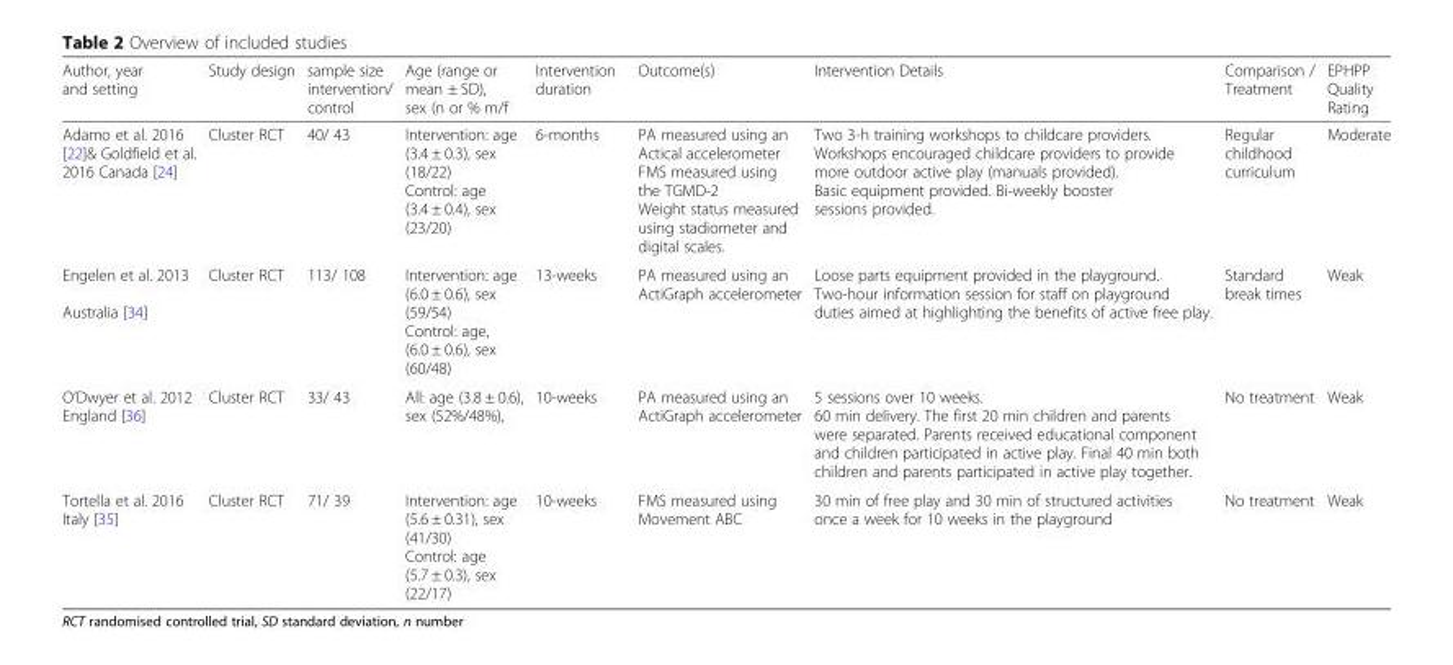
<table><thead><tr><td>Author, year and setting</td><td>Study design</td><td>sample size intervention/ control</td><td>Age (range or mean ± SD), sex (n or % m/f</td><td>Intervention duration</td><td>Outcome(s)</td><td>Intervention Details</td><td>Comparison / Treatment</td><td>EPHPP Quality Rating</td></tr></thead><tbody><tr><td>Adamo et al. 2016 [22]&amp; Goldfield et al. 2016 Canada [24]</td><td>Cluster RCT</td><td>40/ 43</td><td>Intervention: age (3.4 ± 0.3), sex (18/22) Control: age (3.4 ± 0.4), sex (23/20)</td><td>6-months</td><td>PA measured using an Actical accelerometer FMS measured using the TGMD-2 Weight status measured using stadiometer and digital scales.</td><td>Two 3-h training workshops to childcare providers. Workshops encouraged childcare providers to provide more outdoor active play (manuals provided). Basic equipment provided. Bi-weekly booster sessions provided.</td><td>Regular childhood curriculum</td><td>Moderate</td></tr><tr><td>Engelen et al. 2013 Australia [34]</td><td>Cluster RCT</td><td>113/ 108</td><td>Intervention: age (6.0 ± 0.6), sex (59/54) Control: age, (6.0 ± 0.6), sex (60/48)</td><td>13-weeks</td><td>PA measured using an ActiGraph accelerometer</td><td>Loose parts equipment provided in the playground. Two-hour information session for staff on playground duties aimed at highlighting the benefits of active free play.</td><td>Standard break times</td><td>Weak</td></tr><tr><td>O’Dwyer et al. 2012 England [36]</td><td>Cluster RCT</td><td>33/ 43</td><td>All: age (3.8 ± 0.6), sex (52%/48%),</td><td>10-weeks</td><td>PA measured using an ActiGraph accelerometer</td><td>5 sessions over 10 weeks. 60 min delivery. The first 20 min children and parents were separated. Parents received educational component and children participated in active play. Final 40 min both children and parents participated in active play together.</td><td>No treatment</td><td>Weak</td></tr><tr><td>Tortella et al. 2016 Italy [35]</td><td>Cluster RCT</td><td>71/ 39</td><td>Intervention: age (5.6 ± 0.31), sex (41/30) Control: age (5.7 ± 0.3), sex (22/17)</td><td>10-weeks</td><td>FMS measured using Movement ABC</td><td>30 min of free play and 30 min of structured activities once a week for 10 weeks in the playground</td><td>No treatment</td><td>Weak</td></tr></tbody></table>